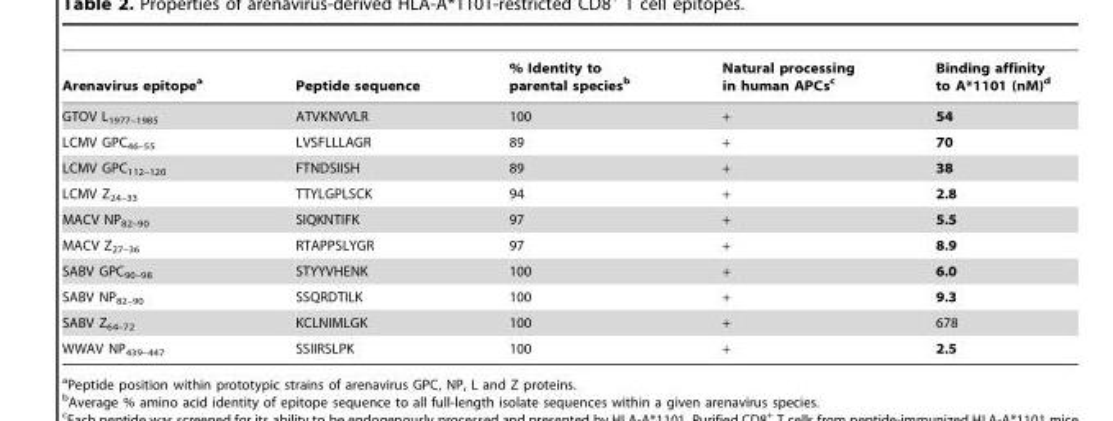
<table><thead><tr><td>Arenavirus epitope<sup>a</sup></td><td>Peptide sequence</td><td>% Identity to parental species<sup>b</sup></td><td>Natural processing in human APCs<sup>c</sup></td><td>Binding affinity to A*1101 (nM)<sup>d</sup></td></tr></thead><tbody><tr><td>GTOV L<sub>1977–1985</sub></td><td>ATVKNVVLR</td><td>100</td><td>+</td><td>54</td></tr><tr><td>LCMV GPC<sub>46–55</sub></td><td>LVSFLLLAGR</td><td>89</td><td>+</td><td>70</td></tr><tr><td>LCMV GPC<sub>112–120</sub></td><td>FTNDSIISH</td><td>89</td><td>+</td><td>38</td></tr><tr><td>LCMV Z<sub>24–33</sub></td><td>TTYLGPLSCK</td><td>94</td><td>+</td><td>2.8</td></tr><tr><td>MACV NP<sub>82–90</sub></td><td>SIQKNTIFK</td><td>97</td><td>+</td><td>5.5</td></tr><tr><td>MACV Z<sub>27–36</sub></td><td>RTAPPSLYGR</td><td>97</td><td>+</td><td>8.9</td></tr><tr><td>SABV GPC<sub>90–98</sub></td><td>STYYVHENK</td><td>100</td><td>+</td><td>6.0</td></tr><tr><td>SABV NP<sub>82–90</sub></td><td>SSQRDTILK</td><td>100</td><td>+</td><td>9.3</td></tr><tr><td>SABV Z<sub>64–72</sub></td><td>KCLNIMLGK</td><td>100</td><td>+</td><td>678</td></tr><tr><td>WWAV NP<sub>439–447</sub></td><td>SSIIRSLPK</td><td>100</td><td>+</td><td>2.5</td></tr></tbody></table>